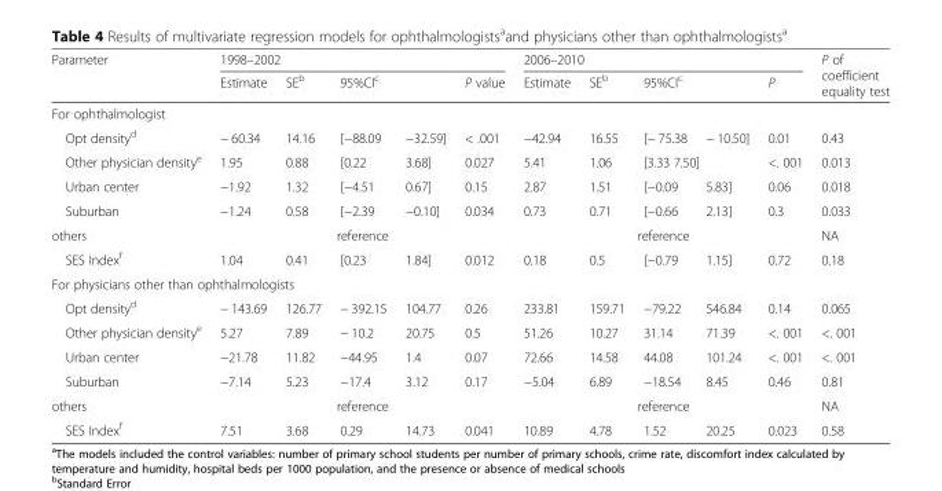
<table><thead><tr><td rowspan="2">Parameter</td><td colspan="5">1998–2002</td><td colspan="5">2006–2010</td><td rowspan="2">P of coefficient equality test</td></tr><tr><td>Estimate</td><td>SE<sup>b</sup></td><td colspan="2">95%CI<sup>c</sup></td><td>P value</td><td>Estimate</td><td>SE<sup>b</sup></td><td colspan="2">95%CI<sup>c</sup></td><td>P</td></tr><tr><td colspan="12">For ophthalmologist</td></tr><tr><td>Opt density<sup>d</sup></td><td>− 60.34</td><td>14.16</td><td>[−88.09</td><td>−32.59]</td><td>&lt; .001</td><td>−42.94</td><td>16.55</td><td>[− 75.38</td><td>− 10.50]</td><td>0.01</td><td>0.43</td></tr></thead><tbody><tr><td>Other physician density<sup>e</sup></td><td>1.95</td><td>0.88</td><td>[0.22</td><td>3.68]</td><td>0.027</td><td>5.41</td><td>1.06</td><td colspan="2">[3.33 7.50]</td><td>&lt;. 001</td><td>0.013</td></tr><tr><td>Urban center</td><td>−1.92</td><td>1.32</td><td>[−4.51</td><td>0.67]</td><td>0.15</td><td>2.87</td><td>1.51</td><td>[−0.09</td><td>5.83]</td><td>0.06</td><td>0.018</td></tr><tr><td>Suburban</td><td>−1.24</td><td>0.58</td><td>[−2.39</td><td>−0.10]</td><td>0.034</td><td>0.73</td><td>0.71</td><td>[−0.66</td><td>2.13]</td><td>0.3</td><td>0.033</td></tr><tr><td>others</td><td colspan="5">reference</td><td colspan="5">reference</td><td>NA</td></tr><tr><td>SES Index<sup>f</sup></td><td>1.04</td><td>0.41</td><td>[0.23</td><td>1.84]</td><td>0.012</td><td>0.18</td><td>0.5</td><td>[−0.79</td><td>1.15]</td><td>0.72</td><td>0.18</td></tr><tr><td colspan="12">For physicians other than ophthalmologists</td></tr><tr><td>Opt density<sup>d</sup></td><td>− 143.69</td><td>126.77</td><td>− 392.15</td><td>104.77</td><td>0.26</td><td>233.81</td><td>159.71</td><td>−79.22</td><td>546.84</td><td>0.14</td><td>0.065</td></tr><tr><td>Other physician density<sup>e</sup></td><td>5.27</td><td>7.89</td><td>− 10.2</td><td>20.75</td><td>0.5</td><td>51.26</td><td>10.27</td><td>31.14</td><td>71.39</td><td>&lt;. 001</td><td>&lt;. 001</td></tr><tr><td>Urban center</td><td>−21.78</td><td>11.82</td><td>−44.95</td><td>1.4</td><td>0.07</td><td>72.66</td><td>14.58</td><td>44.08</td><td>101.24</td><td>&lt;. 001</td><td>&lt;. 001</td></tr><tr><td>Suburban</td><td>−7.14</td><td>5.23</td><td>−17.4</td><td>3.12</td><td>0.17</td><td>−5.04</td><td>6.89</td><td>−18.54</td><td>8.45</td><td>0.46</td><td>0.81</td></tr><tr><td>others</td><td colspan="5">reference</td><td colspan="5">reference</td><td>NA</td></tr><tr><td>SES Index<sup>f</sup></td><td>7.51</td><td>3.68</td><td>0.29</td><td>14.73</td><td>0.041</td><td>10.89</td><td>4.78</td><td>1.52</td><td>20.25</td><td>0.023</td><td>0.58</td></tr></tbody></table>